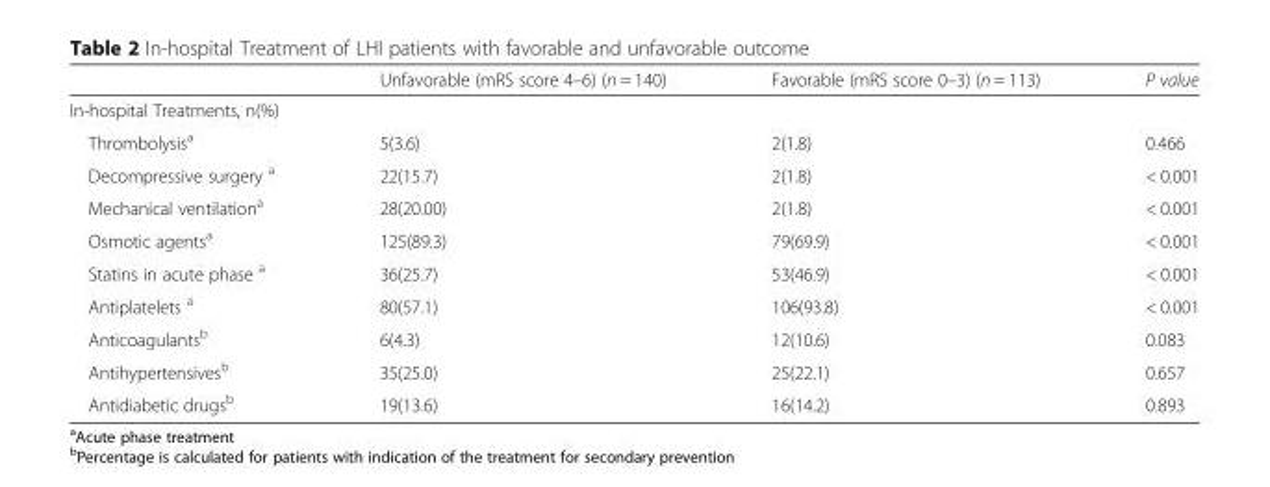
<table><thead><tr><td></td><td>Unfavorable (mRS score 4–6) (n = 140)</td><td>Favorable (mRS score 0–3) (n = 113)</td><td>P value</td></tr></thead><tbody><tr><td colspan="4">In-hospital Treatments, n(%)</td></tr><tr><td>Thrombolysis<sup>a</sup></td><td>5(3.6)</td><td>2(1.8)</td><td>0.466</td></tr><tr><td>Decompressive surgery <sup>a</sup></td><td>22(15.7)</td><td>2(1.8)</td><td>&lt; 0.001</td></tr><tr><td>Mechanical ventilation<sup>a</sup></td><td>28(20.00)</td><td>2(1.8)</td><td>&lt; 0.001</td></tr><tr><td>Osmotic agents<sup>a</sup></td><td>125(89.3)</td><td>79(69.9)</td><td>&lt; 0.001</td></tr><tr><td>Statins in acute phase <sup>a</sup></td><td>36(25.7)</td><td>53(46.9)</td><td>&lt; 0.001</td></tr><tr><td>Antiplatelets <sup>a</sup></td><td>80(57.1)</td><td>106(93.8)</td><td>&lt; 0.001</td></tr><tr><td>Anticoagulants<sup>b</sup></td><td>6(4.3)</td><td>12(10.6)</td><td>0.083</td></tr><tr><td>Antihypertensives<sup>b</sup></td><td>35(25.0)</td><td>25(22.1)</td><td>0.657</td></tr><tr><td>Antidiabetic drugs<sup>b</sup></td><td>19(13.6)</td><td>16(14.2)</td><td>0.893</td></tr></tbody></table>